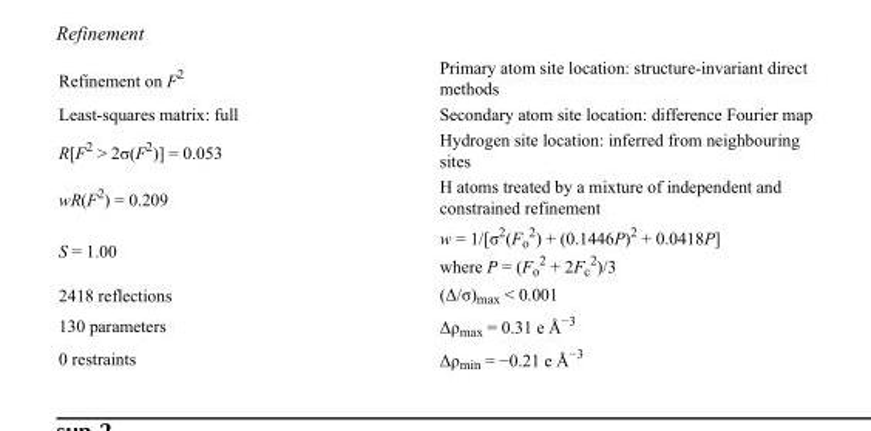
<table><tbody><tr><td>Refinement on F<sup>2</sup></td><td>Primary atom site location: structure-invariant direct methods</td></tr><tr><td>Least-squares matrix: full</td><td>Secondary atom site location: difference Fourier map</td></tr><tr><td>R[F<sup>2</sup> &gt; 2σ(F<sup>2</sup>)] = 0.053</td><td>Hydrogen site location: inferred from neighbouring sites</td></tr><tr><td>wR(F<sup>2</sup>) = 0.209</td><td>H atoms treated by a mixture of independent and constrained refinement</td></tr><tr><td>S = 1.00</td><td>w = 1/[σ<sup>2</sup>(F<sub>o</sub> <sup>2</sup>) + (0.1446P)<sup>2</sup> + 0.0418P] where P = (F<sub>o</sub> <sup>2</sup> + 2F<sub>c</sub> <sup>2</sup>)/3</td></tr><tr><td>2418 reflections</td><td>(Δ/σ)<sub>max</sub> &lt; 0.001</td></tr><tr><td>130 parameters</td><td>Δρ<sub>max</sub> = 0.31 e Å<sup>−3</sup></td></tr><tr><td>0 restraints</td><td>Δρ<sub>min</sub> = −0.21 e Å<sup>−3</sup></td></tr></tbody></table>